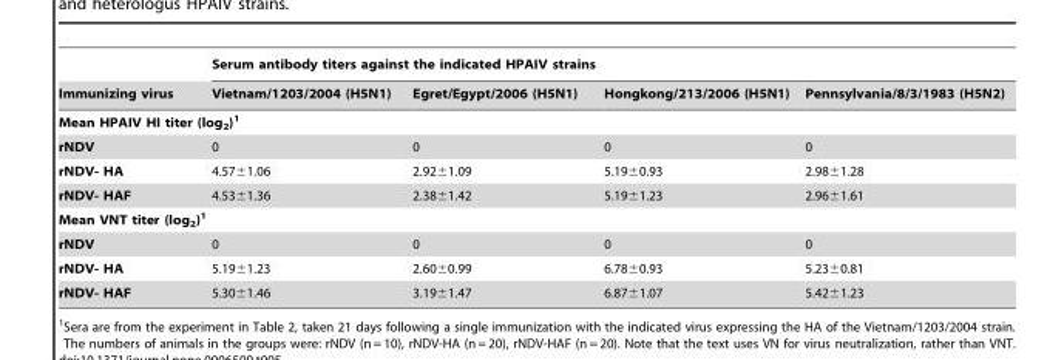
<table><thead><tr><td rowspan="2">Immunizing virus</td><td colspan="4">Serum antibody titers against the indicated HPAIV strains</td></tr><tr><td>Vietnam/1203/2004 (H5N1)</td><td>Egret/Egypt/2006 (H5N1)</td><td>Hongkong/213/2006 (H5N1)</td><td>Pennsylvania/8/3/1983 (H5N2)</td></tr></thead><tbody><tr><td colspan="5">Mean HPAIV HI titer (log<sub>2</sub>)1</td></tr><tr><td>rNDV</td><td>0</td><td>0</td><td>0</td><td>0</td></tr><tr><td>rNDV- HA</td><td>4.57±1.06</td><td>2.92±1.09</td><td>5.19±0.93</td><td>2.98±1.28</td></tr><tr><td>rNDV- HAF</td><td>4.53±1.36</td><td>2.38±1.42</td><td>5.19±1.23</td><td>2.96±1.61</td></tr><tr><td colspan="5">Mean VNT titer (log<sub>2</sub>)1</td></tr><tr><td>rNDV</td><td>0</td><td>0</td><td>0</td><td>0</td></tr><tr><td>rNDV- HA</td><td>5.19±1.23</td><td>2.60±0.99</td><td>6.78±0.93</td><td>5.23±0.81</td></tr><tr><td>rNDV- HAF</td><td>5.30±1.46</td><td>3.19±1.47</td><td>6.87±1.07</td><td>5.42±1.23</td></tr></tbody></table>